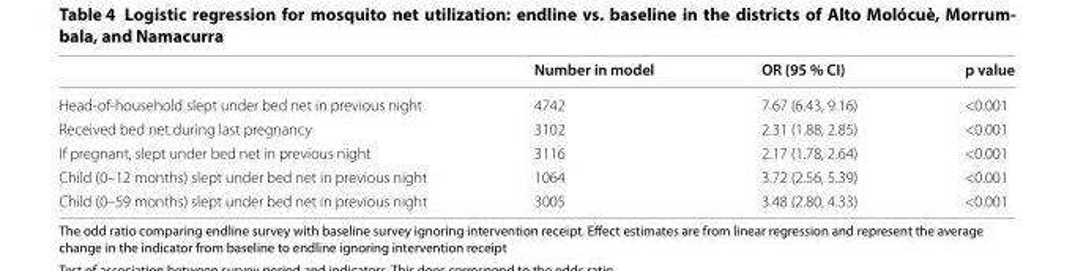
<table><thead><tr><td></td><td>Number in model</td><td>OR (95 % CI)</td><td>p value</td></tr></thead><tbody><tr><td>Head‑of‑household slept under bed net in previous night</td><td>4742</td><td>7.67 (6.43, 9.16)</td><td>&lt;0.001</td></tr><tr><td>Received bed net during last pregnancy</td><td>3102</td><td>2.31 (1.88, 2.85)</td><td>&lt;0.001</td></tr><tr><td>If pregnant, slept under bed net in previous night</td><td>3116</td><td>2.17 (1.78, 2.64)</td><td>&lt;0.001</td></tr><tr><td>Child (0–12 months) slept under bed net in previous night</td><td>1064</td><td>3.72 (2.56, 5.39)</td><td>&lt;0.001</td></tr><tr><td>Child (0–59 months) slept under bed net in previous night</td><td>3005</td><td>3.48 (2.80, 4.33)</td><td>&lt;0.001</td></tr></tbody></table>